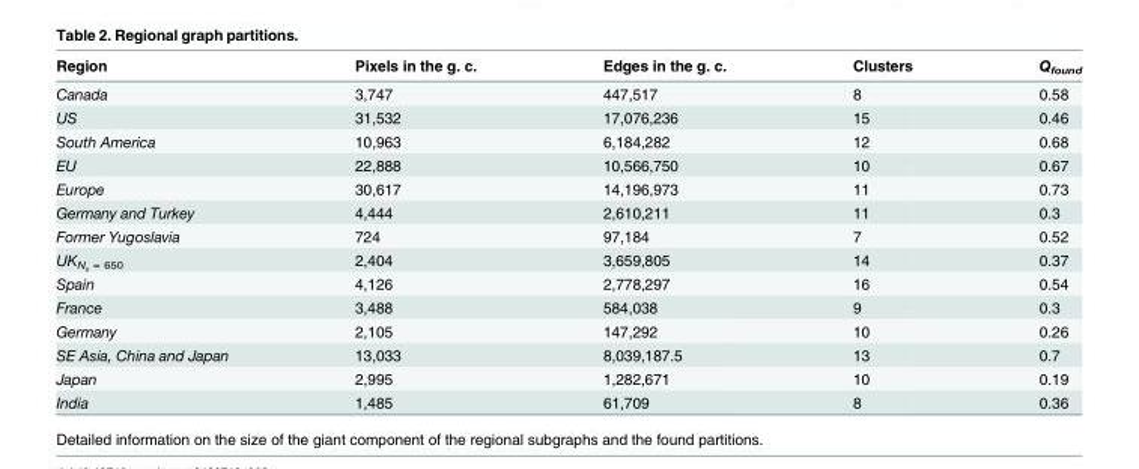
<table><thead><tr><td>Region</td><td>Pixels in the g. c.</td><td>Edges in the g. c.</td><td>Clusters</td><td>Q<sub>found</sub></td></tr></thead><tbody><tr><td>Canada</td><td>3,747</td><td>447,517</td><td>8</td><td>0.58</td></tr><tr><td>US</td><td>31,532</td><td>17,076,236</td><td>15</td><td>0.46</td></tr><tr><td>South America</td><td>10,963</td><td>6,184,282</td><td>12</td><td>0.68</td></tr><tr><td>EU</td><td>22,888</td><td>10,566,750</td><td>10</td><td>0.67</td></tr><tr><td>Europe</td><td>30,617</td><td>14,196,973</td><td>11</td><td>0.73</td></tr><tr><td>Germany and Turkey</td><td>4,444</td><td>2,610,211</td><td>11</td><td>0.3</td></tr><tr><td>Former Yugoslavia</td><td>724</td><td>97,184</td><td>7</td><td>0.52</td></tr><tr><td>UKNs = 650</td><td>2,404</td><td>3,659,805</td><td>14</td><td>0.37</td></tr><tr><td>Spain</td><td>4,126</td><td>2,778,297</td><td>16</td><td>0.54</td></tr><tr><td>France</td><td>3,488</td><td>584,038</td><td>9</td><td>0.3</td></tr><tr><td>Germany</td><td>2,105</td><td>147,292</td><td>10</td><td>0.26</td></tr><tr><td>SE Asia, China and Japan</td><td>13,033</td><td>8,039,187.5</td><td>13</td><td>0.7</td></tr><tr><td>Japan</td><td>2,995</td><td>1,282,671</td><td>10</td><td>0.19</td></tr><tr><td>India</td><td>1,485</td><td>61,709</td><td>8</td><td>0.36</td></tr></tbody></table>